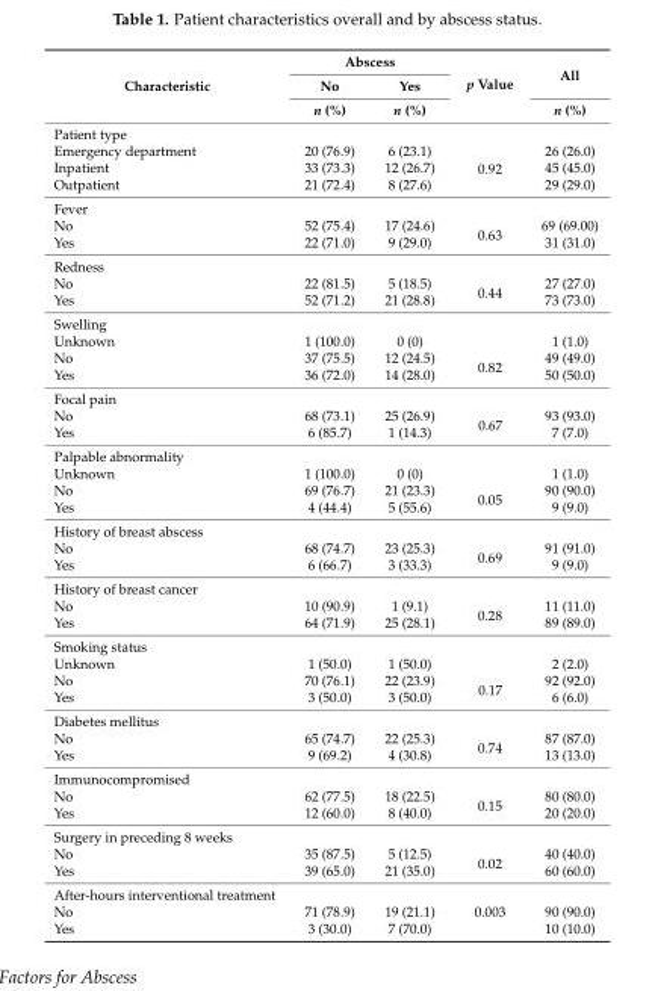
<table><thead><tr><td rowspan="3">Characteristic</td><td colspan="2">Abscess</td><td rowspan="3">p Value</td><td rowspan="3">All n (%)</td></tr><tr><td rowspan="2">No n (%)</td><td rowspan="2">Yes n (%)</td></tr><tr></tr></thead><tbody><tr><td colspan="5">Patient type</td></tr><tr><td>Emergency department</td><td>20 (76.9)</td><td>6 (23.1)</td><td rowspan="3">0.92</td><td>26 (26.0)</td></tr><tr><td>Inpatient</td><td>33 (73.3)</td><td>12 (26.7)</td><td>45 (45.0)</td></tr><tr><td>Outpatient</td><td>21 (72.4)</td><td>8 (27.6)</td><td>29 (29.0)</td></tr><tr><td colspan="5">Fever</td></tr><tr><td>No</td><td>52 (75.4)</td><td>17 (24.6)</td><td rowspan="2">0.63</td><td>69 (69.00)</td></tr><tr><td>Yes</td><td>22 (71.0)</td><td>9 (29.0)</td><td>31 (31.0)</td></tr><tr><td colspan="5">Redness</td></tr><tr><td>No</td><td>22 (81.5)</td><td>5 (18.5)</td><td rowspan="2">0.44</td><td>27 (27.0)</td></tr><tr><td>Yes</td><td>52 (71.2)</td><td>21 (28.8)</td><td>73 (73.0)</td></tr><tr><td colspan="5">Swelling</td></tr><tr><td>Unknown</td><td>1 (100.0)</td><td>0 (0)</td><td></td><td>1 (1.0)</td></tr><tr><td>No</td><td>37 (75.5)</td><td>12 (24.5)</td><td rowspan="2">0.82</td><td>49 (49.0)</td></tr><tr><td>Yes</td><td>36 (72.0)</td><td>14 (28.0)</td><td>50 (50.0)</td></tr><tr><td colspan="5">Focal pain</td></tr><tr><td>No</td><td>68 (73.1)</td><td>25 (26.9)</td><td rowspan="2">0.67</td><td>93 (93.0)</td></tr><tr><td>Yes</td><td>6 (85.7)</td><td>1 (14.3)</td><td>7 (7.0)</td></tr><tr><td colspan="5">Palpable abnormality</td></tr><tr><td>Unknown</td><td>1 (100.0)</td><td>0 (0)</td><td></td><td>1 (1.0)</td></tr><tr><td>No</td><td>69 (76.7)</td><td>21 (23.3)</td><td rowspan="2">0.05</td><td>90 (90.0)</td></tr><tr><td>Yes</td><td>4 (44.4)</td><td>5 (55.6)</td><td>9 (9.0)</td></tr><tr><td colspan="5">History of breast abscess</td></tr><tr><td>No</td><td>68 (74.7)</td><td>23 (25.3)</td><td rowspan="2">0.69</td><td>91 (91.0)</td></tr><tr><td>Yes</td><td>6 (66.7)</td><td>3 (33.3)</td><td>9 (9.0)</td></tr><tr><td colspan="5">History of breast cancer</td></tr><tr><td>No</td><td>10 (90.9)</td><td>1 (9.1)</td><td rowspan="2">0.28</td><td>11 (11.0)</td></tr><tr><td>Yes</td><td>64 (71.9)</td><td>25 (28.1)</td><td>89 (89.0)</td></tr><tr><td colspan="5">Smoking status</td></tr><tr><td>Unknown</td><td>1 (50.0)</td><td>1 (50.0)</td><td></td><td>2 (2.0)</td></tr><tr><td>No</td><td>70 (76.1)</td><td>22 (23.9)</td><td rowspan="2">0.17</td><td>92 (92.0)</td></tr><tr><td>Yes</td><td>3 (50.0)</td><td>3 (50.0)</td><td>6 (6.0)</td></tr><tr><td colspan="5">Diabetes mellitus</td></tr><tr><td>No</td><td>65 (74.7)</td><td>22 (25.3)</td><td rowspan="2">0.74</td><td>87 (87.0)</td></tr><tr><td>Yes</td><td>9 (69.2)</td><td>4 (30.8)</td><td>13 (13.0)</td></tr><tr><td colspan="5">Immunocompromised</td></tr><tr><td>No</td><td>62 (77.5)</td><td>18 (22.5)</td><td rowspan="2">0.15</td><td>80 (80.0)</td></tr><tr><td>Yes</td><td>12 (60.0)</td><td>8 (40.0)</td><td>20 (20.0)</td></tr><tr><td colspan="5">Surgery in preceding 8 weeks</td></tr><tr><td>No</td><td>35 (87.5)</td><td>5 (12.5)</td><td rowspan="2">0.02</td><td>40 (40.0)</td></tr><tr><td>Yes</td><td>39 (65.0)</td><td>21 (35.0)</td><td>60 (60.0)</td></tr><tr><td colspan="5">After-hours interventional treatment</td></tr><tr><td>No</td><td>71 (78.9)</td><td>19 (21.1)</td><td>0.003</td><td>90 (90.0)</td></tr><tr><td>Yes</td><td>3 (30.0)</td><td>7 (70.0)</td><td></td><td>10 (10.0)</td></tr></tbody></table>